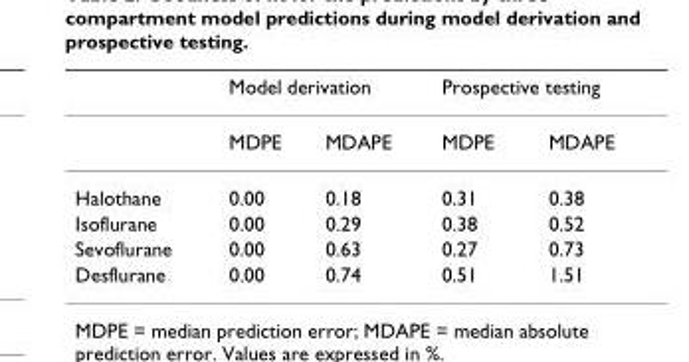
<table><thead><tr><td rowspan="2"></td><td colspan="2">Model derivation</td><td colspan="2">Prospective testing</td></tr><tr><td>MDPE</td><td>MDAPE</td><td>MDPE</td><td>MDAPE</td></tr></thead><tbody><tr><td>Halothane</td><td>0.00</td><td>0.18</td><td>0.31</td><td>0.38</td></tr><tr><td>Isoflurane</td><td>0.00</td><td>0.29</td><td>0.38</td><td>0.52</td></tr><tr><td>Sevoflurane</td><td>0.00</td><td>0.63</td><td>0.27</td><td>0.73</td></tr><tr><td>Desflurane</td><td>0.00</td><td>0.74</td><td>0.51</td><td>1.51</td></tr></tbody></table>